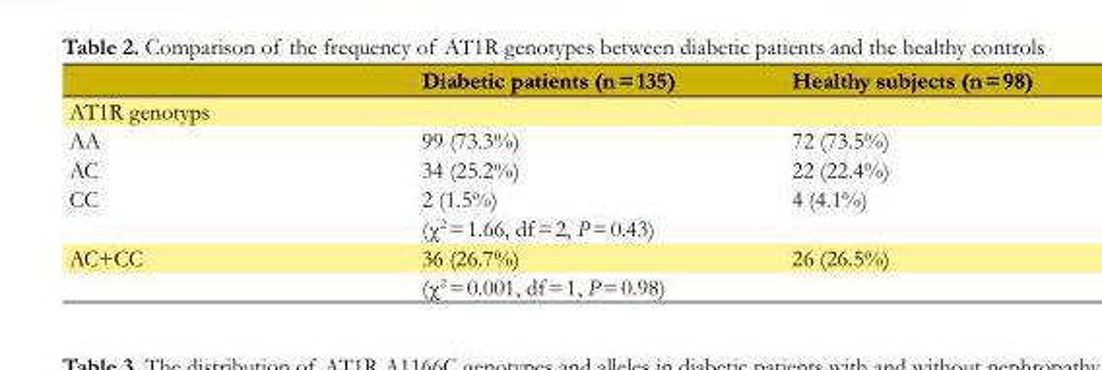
<table><thead><tr><td></td><td>Diabetic patients (n = 135)</td><td>Healthy subjects (n = 98)</td></tr></thead><tbody><tr><td colspan="3">AT1R genotyps</td></tr><tr><td>AA</td><td>99 (73.3%)</td><td>72 (73.5%)</td></tr><tr><td>AC</td><td>34 (25.2%)</td><td>22 (22.4%)</td></tr><tr><td rowspan="2">CC</td><td>2 (1.5%)</td><td>4 (4.1%)</td></tr><tr><td>(χ<sup>2</sup> = 1.66, df = 2, P = 0.43)</td><td></td></tr><tr><td rowspan="2">AC+CC</td><td>36 (26.7%)</td><td>26 (26.5%)</td></tr><tr><td>(χ<sup>2</sup> = 0.001, df = 1, P = 0.98)</td><td></td></tr></tbody></table>